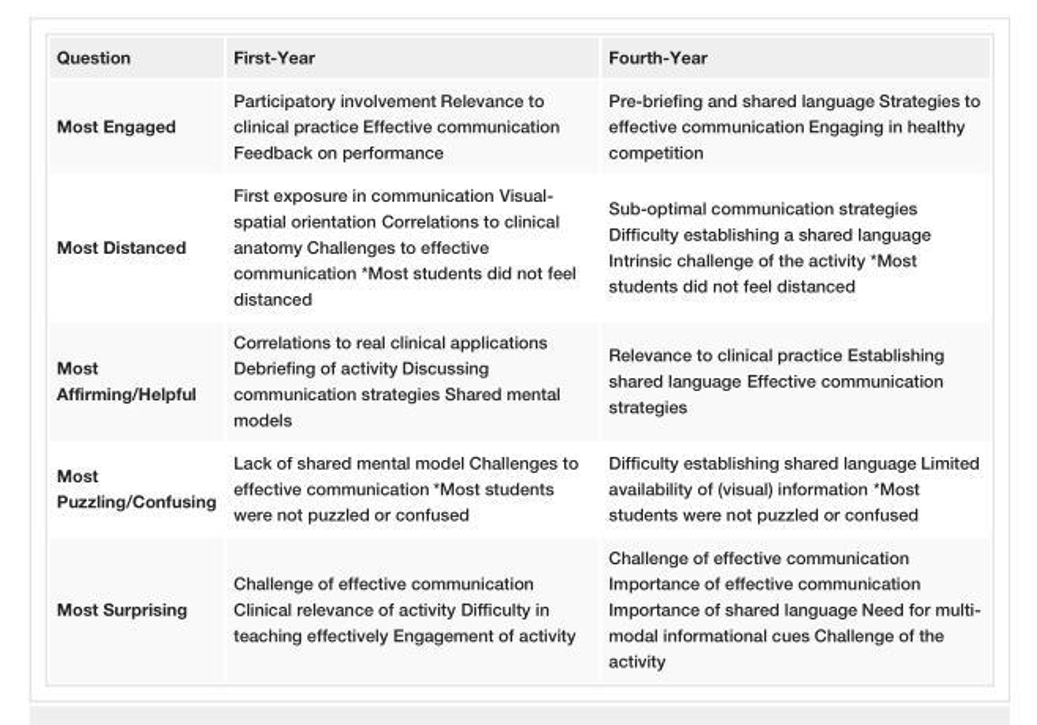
<table><tbody><tr><td>Question</td><td>First-Year</td><td>Fourth-Year</td></tr><tr><td>Most Engaged</td><td>Participatory involvement Relevance to clinical practice Effective communication Feedback on performance</td><td>Pre-briefing and shared language Strategies to effective communication Engaging in healthy competition</td></tr><tr><td>Most Distanced</td><td>First exposure in communication Visual- spatial orientation Correlations to clinical anatomy Challenges to effective communication *Most students did not feel distanced</td><td>Sub-optimal communication strategies Difficulty establishing a shared language Intrinsic challenge of the activity *Most students did not feel distanced</td></tr><tr><td>Most Affirming/Helpful</td><td>Correlations to real clinical applications Debriefing of activity Discussing communication strategies Shared mental models</td><td>Relevance to clinical practice Establishing shared language Effective communication strategies</td></tr><tr><td>Most Puzzling/Confusing</td><td>Lack of shared mental model Challenges to effective communication *Most students were not puzzled or confused</td><td>Difficulty establishing shared language Limited availability of (visual) information *Most students were not puzzled or confused</td></tr><tr><td>Most Surprising</td><td>Challenge of effective communication Clinical relevance of activity Difficulty in teaching effectively Engagement of activity</td><td>Challenge of effective communication Importance of effective communication Importance of shared language Need for multi- modal informational cues Challenge of the activity</td></tr></tbody></table>